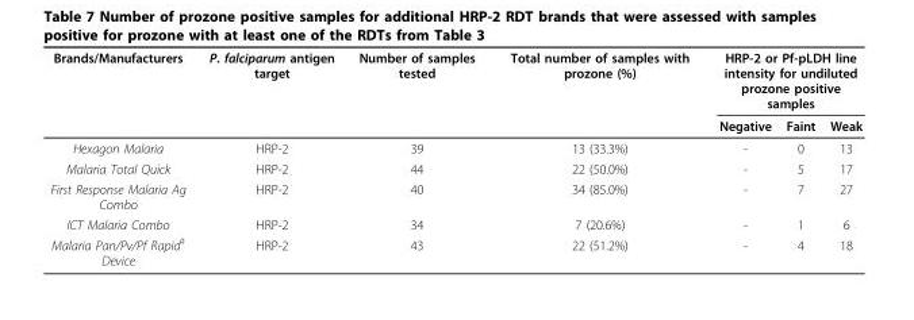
<table><thead><tr><td rowspan="2">Brands/Manufacturers</td><td rowspan="2">P. falciparum antigen target</td><td rowspan="2">Number of samples tested</td><td rowspan="2">Total number of samples with prozone (%)</td><td colspan="3">HRP-2 or Pf-pLDH line intensity for undiluted prozone positive samples</td></tr><tr><td>Negative</td><td>Faint</td><td>Weak</td></tr></thead><tbody><tr><td>Hexagon Malaria</td><td>HRP-2</td><td>39</td><td>13 (33.3%)</td><td>-</td><td>0</td><td>13</td></tr><tr><td>Malaria Total Quick</td><td>HRP-2</td><td>44</td><td>22 (50.0%)</td><td>-</td><td>5</td><td>17</td></tr><tr><td>First Response Malaria Ag Combo</td><td>HRP-2</td><td>40</td><td>34 (85.0%)</td><td>-</td><td>7</td><td>27</td></tr><tr><td>ICT Malaria Combo</td><td>HRP-2</td><td>34</td><td>7 (20.6%)</td><td>-</td><td>1</td><td>6</td></tr><tr><td>Malaria Pan/Pv/Pf Rapid<sup>‡</sup> Device</td><td>HRP-2</td><td>43</td><td>22 (51.2%)</td><td>-</td><td>4</td><td>18</td></tr></tbody></table>